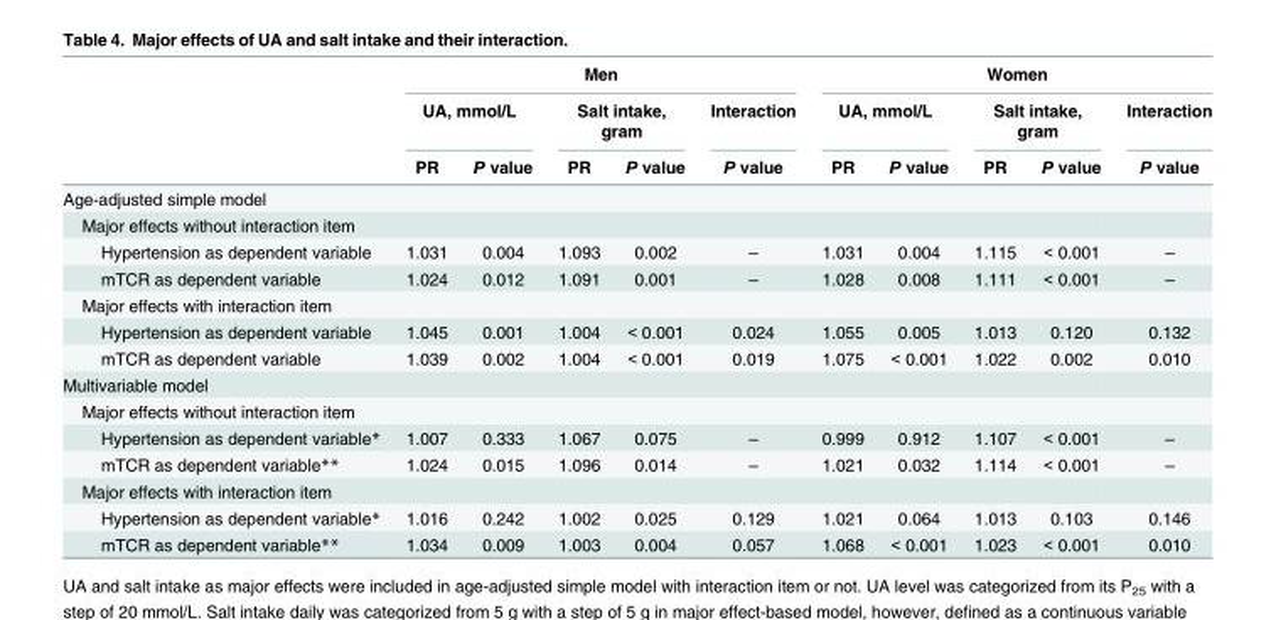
<table><thead><tr><td rowspan="3"></td><td colspan="5">Men</td><td colspan="5">Women</td></tr><tr><td colspan="2">UA, mmol/L</td><td colspan="2">Salt intake, gram</td><td rowspan="2">Interaction P value</td><td colspan="2">UA, mmol/L</td><td colspan="2">Salt intake, gram</td><td rowspan="2">Interaction P value</td></tr><tr><td>PR</td><td>P value</td><td>PR</td><td>P value</td><td>PR</td><td>P value</td><td>PR</td><td>P value</td></tr></thead><tbody><tr><td colspan="11">Age-adjusted simple model</td></tr><tr><td colspan="11">Major effects without interaction item</td></tr><tr><td>Hypertension as dependent variable</td><td>1.031</td><td>0.004</td><td>1.093</td><td>0.002</td><td>–</td><td>1.031</td><td>0.004</td><td>1.115</td><td>&lt; 0.001</td><td>–</td></tr><tr><td>mTCR as dependent variable</td><td>1.024</td><td>0.012</td><td>1.091</td><td>0.001</td><td>–</td><td>1.028</td><td>0.008</td><td>1.111</td><td>&lt; 0.001</td><td>–</td></tr><tr><td colspan="11">Major effects with interaction item</td></tr><tr><td>Hypertension as dependent variable</td><td>1.045</td><td>0.001</td><td>1.004</td><td>&lt; 0.001</td><td>0.024</td><td>1.055</td><td>0.005</td><td>1.013</td><td>0.120</td><td>0.132</td></tr><tr><td>mTCR as dependent variable</td><td>1.039</td><td>0.002</td><td>1.004</td><td>&lt; 0.001</td><td>0.019</td><td>1.075</td><td>&lt; 0.001</td><td>1.022</td><td>0.002</td><td>0.010</td></tr><tr><td colspan="11">Multivariable model</td></tr><tr><td colspan="11">Major effects without interaction item</td></tr><tr><td>Hypertension as dependent variable*</td><td>1.007</td><td>0.333</td><td>1.067</td><td>0.075</td><td>–</td><td>0.999</td><td>0.912</td><td>1.107</td><td>&lt; 0.001</td><td>–</td></tr><tr><td>mTCR as dependent variable**</td><td>1.024</td><td>0.015</td><td>1.096</td><td>0.014</td><td>–</td><td>1.021</td><td>0.032</td><td>1.114</td><td>&lt; 0.001</td><td>–</td></tr><tr><td colspan="11">Major effects with interaction item</td></tr><tr><td>Hypertension as dependent variable*</td><td>1.016</td><td>0.242</td><td>1.002</td><td>0.025</td><td>0.129</td><td>1.021</td><td>0.064</td><td>1.013</td><td>0.103</td><td>0.146</td></tr><tr><td>mTCR as dependent variable**</td><td>1.034</td><td>0.009</td><td>1.003</td><td>0.004</td><td>0.057</td><td>1.068</td><td>&lt; 0.001</td><td>1.023</td><td>&lt; 0.001</td><td>0.010</td></tr></tbody></table>